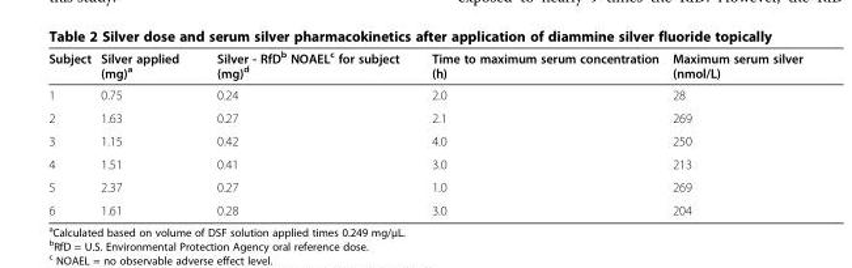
<table><thead><tr><td>Subject</td><td>Silver applied (mg)<sup>a</sup></td><td>Silver - RfD<sup>b</sup> NOAEL<sup>c</sup> for subject (mg)<sup>d</sup></td><td>Time to maximum serum concentration (h)</td><td>Maximum serum silver (nmol/L)</td></tr></thead><tbody><tr><td>1</td><td>0.75</td><td>0.24</td><td>2.0</td><td>28</td></tr><tr><td>2</td><td>1.63</td><td>0.27</td><td>2.1</td><td>269</td></tr><tr><td>3</td><td>1.15</td><td>0.42</td><td>4.0</td><td>250</td></tr><tr><td>4</td><td>1.51</td><td>0.41</td><td>3.0</td><td>213</td></tr><tr><td>5</td><td>2.37</td><td>0.27</td><td>1.0</td><td>269</td></tr><tr><td>6</td><td>1.61</td><td>0.28</td><td>3.0</td><td>204</td></tr></tbody></table>